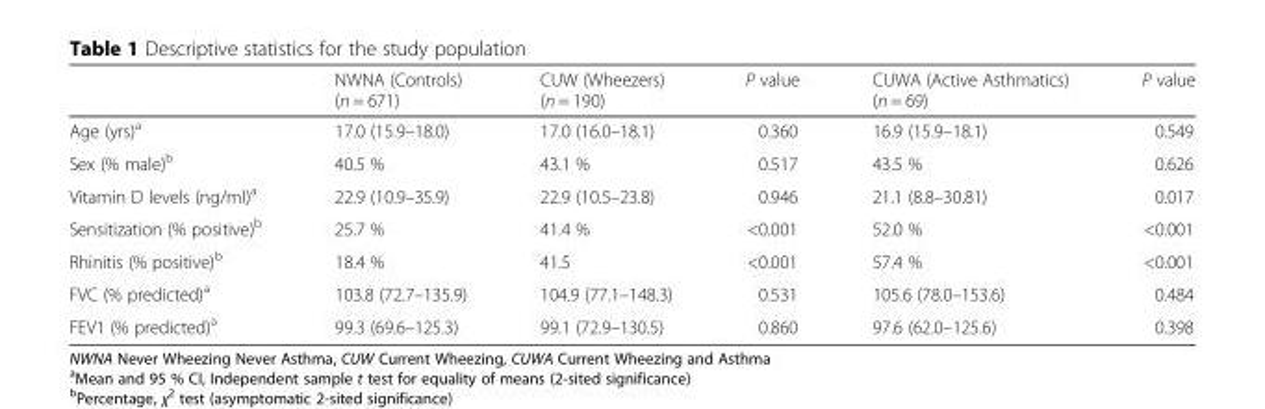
<table><thead><tr><td></td><td>NWNA (Controls) (n = 671)</td><td>CUW (Wheezers) (n = 190)</td><td>P value</td><td>CUWA (Active Asthmatics) (n = 69)</td><td>P value</td></tr></thead><tbody><tr><td>Age (yrs)<sup>a</sup></td><td>17.0 (15.9–18.0)</td><td>17.0 (16.0–18.1)</td><td>0.360</td><td>16.9 (15.9–18.1)</td><td>0.549</td></tr><tr><td>Sex (% male)<sup>b</sup></td><td>40.5 %</td><td>43.1 %</td><td>0.517</td><td>43.5 %</td><td>0.626</td></tr><tr><td>Vitamin D levels (ng/ml)<sup>a</sup></td><td>22.9 (10.9–35.9)</td><td>22.9 (10.5–23.8)</td><td>0.946</td><td>21.1 (8.8–30.81)</td><td>0.017</td></tr><tr><td>Sensitization (% positive)<sup>b</sup></td><td>25.7 %</td><td>41.4 %</td><td>&lt;0.001</td><td>52.0 %</td><td>&lt;0.001</td></tr><tr><td>Rhinitis (% positive)<sup>b</sup></td><td>18.4 %</td><td>41.5</td><td>&lt;0.001</td><td>57.4 %</td><td>&lt;0.001</td></tr><tr><td>FVC (% predicted)<sup>a</sup></td><td>103.8 (72.7–135.9)</td><td>104.9 (77.1–148.3)</td><td>0.531</td><td>105.6 (78.0–153.6)</td><td>0.484</td></tr><tr><td>FEV1 (% predicted)<sup>a</sup></td><td>99.3 (69.6–125.3)</td><td>99.1 (72.9–130.5)</td><td>0.860</td><td>97.6 (62.0–125.6)</td><td>0.398</td></tr></tbody></table>